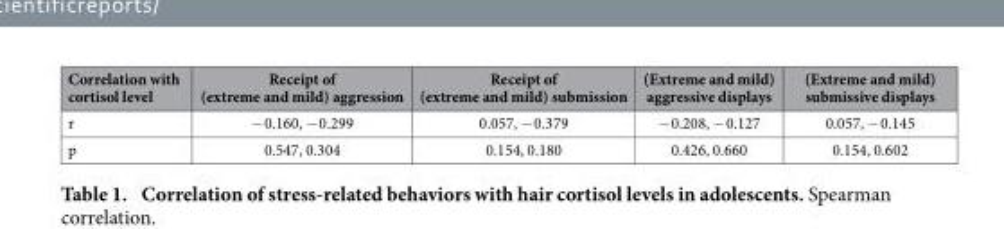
<table><thead><tr><td>Correlation with cortisol level</td><td>Receipt of (extreme and mild) aggression</td><td>Receipt of (extreme and mild) submission</td><td>(Extreme and mild) aggressive displays</td><td>(Extreme and mild) submissive displays</td></tr></thead><tbody><tr><td>r</td><td>− 0.160, − 0.299</td><td>0.057, − 0.379</td><td>− 0.208, − 0.127</td><td>0.057, − 0.145</td></tr><tr><td>p</td><td>0.547, 0.304</td><td>0.154, 0.180</td><td>0.426, 0.660</td><td>0.154, 0.602</td></tr></tbody></table>